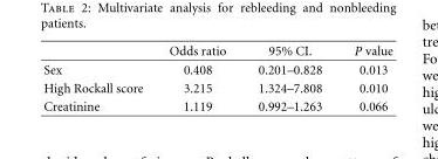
<table><thead><tr><td></td><td>Odds ratio</td><td>95% CI.</td><td>P value</td></tr></thead><tbody><tr><td>Sex</td><td>0.408</td><td>0.201–0.828</td><td>0.013</td></tr><tr><td>High Rockall score</td><td>3.215</td><td>1.324–7.808</td><td>0.010</td></tr><tr><td>Creatinine</td><td>1.119</td><td>0.992–1.263</td><td>0.066</td></tr></tbody></table>